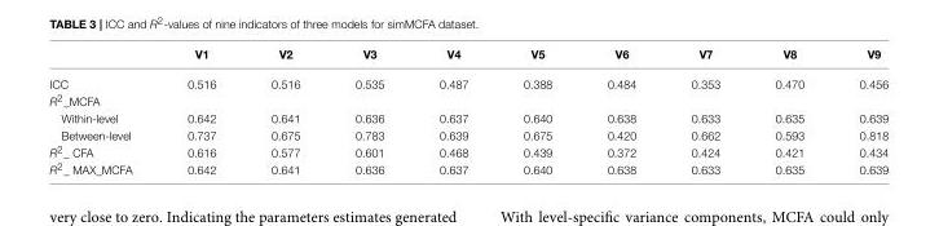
<table><thead><tr><td></td><td>V1</td><td>V2</td><td>V3</td><td>V4</td><td>V5</td><td>V6</td><td>V7</td><td>V8</td><td>V9</td></tr></thead><tbody><tr><td>ICC</td><td>0.516</td><td>0.516</td><td>0.535</td><td>0.487</td><td>0.388</td><td>0.484</td><td>0.353</td><td>0.470</td><td>0.456</td></tr><tr><td colspan="10">R<sup>2</sup>_MCFA</td></tr><tr><td>Within-level</td><td>0.642</td><td>0.641</td><td>0.636</td><td>0.637</td><td>0.640</td><td>0.638</td><td>0.633</td><td>0.635</td><td>0.639</td></tr><tr><td>Between-level</td><td>0.737</td><td>0.675</td><td>0.783</td><td>0.639</td><td>0.675</td><td>0.420</td><td>0.662</td><td>0.593</td><td>0.818</td></tr><tr><td>R<sup>2</sup>_ CFA</td><td>0.616</td><td>0.577</td><td>0.601</td><td>0.468</td><td>0.439</td><td>0.372</td><td>0.424</td><td>0.421</td><td>0.434</td></tr><tr><td>R<sup>2</sup>_ MAX_MCFA</td><td>0.642</td><td>0.641</td><td>0.636</td><td>0.637</td><td>0.640</td><td>0.638</td><td>0.633</td><td>0.635</td><td>0.639</td></tr></tbody></table>